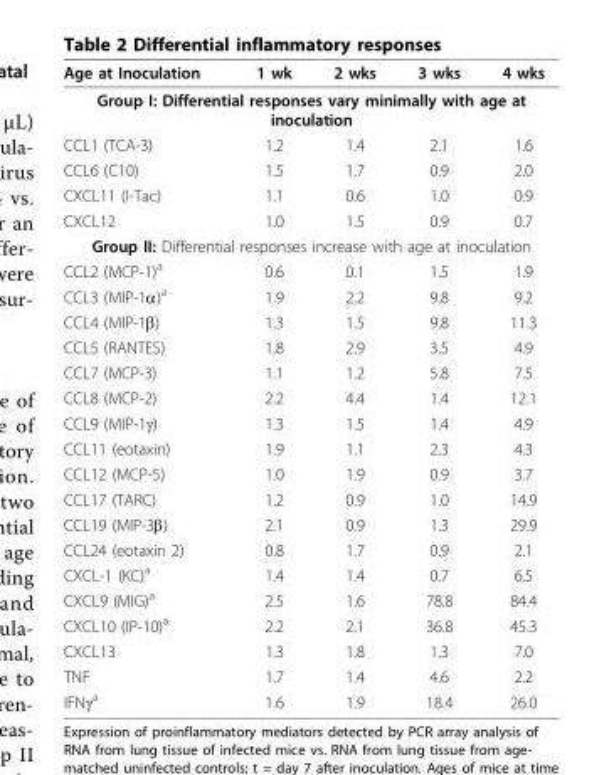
<table><thead><tr><td>Age at Inoculation</td><td>1 wk</td><td>2 wks</td><td>3 wks</td><td>4 wks</td></tr></thead><tbody><tr><td colspan="5">Group I: Differential responses vary minimally with age at inoculation</td></tr><tr><td>CCL1 (TCA-3)</td><td>1.2</td><td>1.4</td><td>2.1</td><td>1.6</td></tr><tr><td>CCL6 (C10)</td><td>1.5</td><td>1.7</td><td>0.9</td><td>2.0</td></tr><tr><td>CXCL11 (I-Tac)</td><td>1.1</td><td>0.6</td><td>1.0</td><td>0.9</td></tr><tr><td>CXCL12</td><td>1.0</td><td>1.5</td><td>0.9</td><td>0.7</td></tr><tr><td colspan="5">Group II: Differential responses increase with age at inoculation</td></tr><tr><td>CCL2 (MCP-1)<sup>a</sup></td><td>0.6</td><td>0.1</td><td>1.5</td><td>1.9</td></tr><tr><td>CCL3 (MIP-1α)<sup>a</sup></td><td>1.9</td><td>2.2</td><td>9.8</td><td>9.2</td></tr><tr><td>CCL4 (MIP-1β)</td><td>1.3</td><td>1.5</td><td>9.8</td><td>11.3</td></tr><tr><td>CCL5 (RANTES)</td><td>1.8</td><td>2.9</td><td>3.5</td><td>4.9</td></tr><tr><td>CCL7 (MCP-3)</td><td>1.1</td><td>1.2</td><td>5.8</td><td>7.5</td></tr><tr><td>CCL8 (MCP-2)</td><td>2.2</td><td>4.4</td><td>1.4</td><td>12.1</td></tr><tr><td>CCL9 (MIP-1γ)</td><td>1.3</td><td>1.5</td><td>1.4</td><td>4.9</td></tr><tr><td>CCL11 (eotaxin)</td><td>1.9</td><td>1.1</td><td>2.3</td><td>4.3</td></tr><tr><td>CCL12 (MCP-5)</td><td>1.0</td><td>1.9</td><td>0.9</td><td>3.7</td></tr><tr><td>CCL17 (TARC)</td><td>1.2</td><td>0.9</td><td>1.0</td><td>14.9</td></tr><tr><td>CCL19 (MIP-3β)</td><td>2.1</td><td>0.9</td><td>1.3</td><td>29.9</td></tr><tr><td>CCL24 (eotaxin 2)</td><td>0.8</td><td>1.7</td><td>0.9</td><td>2.1</td></tr><tr><td>CXCL-1 (KC)<sup>a</sup></td><td>1.4</td><td>1.4</td><td>0.7</td><td>6.5</td></tr><tr><td>CXCL9 (MIG)<sup>a</sup></td><td>2.5</td><td>1.6</td><td>78.8</td><td>84.4</td></tr><tr><td>CXCL10 (IP-10)<sup>a</sup></td><td>2.2</td><td>2.1</td><td>36.8</td><td>45.3</td></tr><tr><td>CXCL13</td><td>1.3</td><td>1.8</td><td>1.3</td><td>7.0</td></tr><tr><td>TNF</td><td>1.7</td><td>1.4</td><td>4.6</td><td>2.2</td></tr><tr><td>IFNγ<sup>a</sup></td><td>1.6</td><td>1.9</td><td>18.4</td><td>26.0</td></tr></tbody></table>